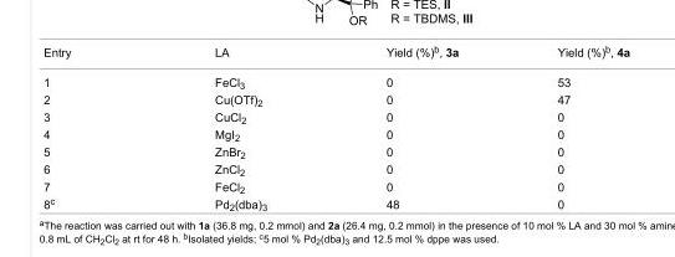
<table><tbody><tr><td>Entry</td><td>LA</td><td>Yield (%)<sup>b</sup>, 3a</td><td>Yield (%)<sup>b</sup>, 4a</td></tr><tr><td>1</td><td>FeCl<sub>3</sub></td><td>0</td><td>53</td></tr><tr><td>2</td><td>Cu(OTf)<sub>2</sub></td><td>0</td><td>47</td></tr><tr><td>3</td><td>CuCl<sub>2</sub></td><td>0</td><td>0</td></tr><tr><td>4</td><td>MgI<sub>2</sub></td><td>0</td><td>0</td></tr><tr><td>5</td><td>ZnBr<sub>2</sub></td><td>0</td><td>0</td></tr><tr><td>6</td><td>ZnCl<sub>2</sub></td><td>0</td><td>0</td></tr><tr><td>7</td><td>FeCl<sub>2</sub></td><td>0</td><td>0</td></tr><tr><td>8<sup>c</sup></td><td>Pd<sub>2</sub>(dba)<sub>3</sub></td><td>48</td><td>0</td></tr></tbody></table>